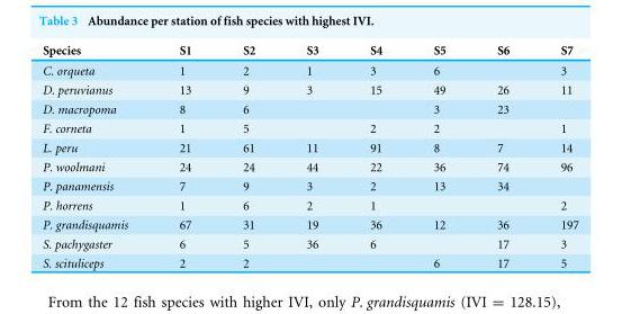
<table><thead><tr><td>Species</td><td>S1</td><td>S2</td><td>S3</td><td>S4</td><td>S5</td><td>S6</td><td>S7</td></tr></thead><tbody><tr><td>C. orqueta</td><td>1</td><td>2</td><td>1</td><td>3</td><td>6</td><td></td><td>3</td></tr><tr><td>D. peruvianus</td><td>13</td><td>9</td><td>3</td><td>15</td><td>49</td><td>26</td><td>11</td></tr><tr><td>D. macropoma</td><td>8</td><td>6</td><td></td><td></td><td>3</td><td>23</td><td></td></tr><tr><td>F. corneta</td><td>1</td><td>5</td><td></td><td>2</td><td>2</td><td></td><td>1</td></tr><tr><td>L. peru</td><td>21</td><td>61</td><td>11</td><td>91</td><td>8</td><td>7</td><td>14</td></tr><tr><td>P. woolmani</td><td>24</td><td>24</td><td>44</td><td>22</td><td>36</td><td>74</td><td>96</td></tr><tr><td>P. panamensis</td><td>7</td><td>9</td><td>3</td><td>2</td><td>13</td><td>34</td><td></td></tr><tr><td>P. horrens</td><td>1</td><td>6</td><td>2</td><td>1</td><td></td><td></td><td>2</td></tr><tr><td>P. grandisquamis</td><td>67</td><td>31</td><td>19</td><td>36</td><td>12</td><td>36</td><td>197</td></tr><tr><td>S. pachygaster</td><td>6</td><td>5</td><td>36</td><td>6</td><td></td><td>17</td><td>3</td></tr><tr><td>S. scituliceps</td><td>2</td><td>2</td><td></td><td></td><td>6</td><td>17</td><td>5</td></tr></tbody></table>